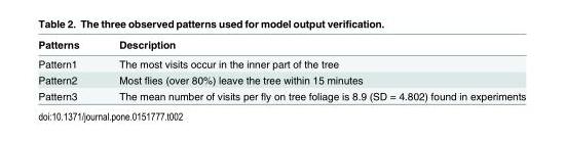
<table><thead><tr><td>Patterns</td><td>Description</td></tr></thead><tbody><tr><td>Pattern1</td><td>The most visits occur in the inner part of the tree</td></tr><tr><td>Pattern2</td><td>Most flies (over 80%) leave the tree within 15 minutes</td></tr><tr><td>Pattern3</td><td>The mean number of visits per fly on tree foliage is 8.9 (SD = 4.802) found in experiments</td></tr></tbody></table>